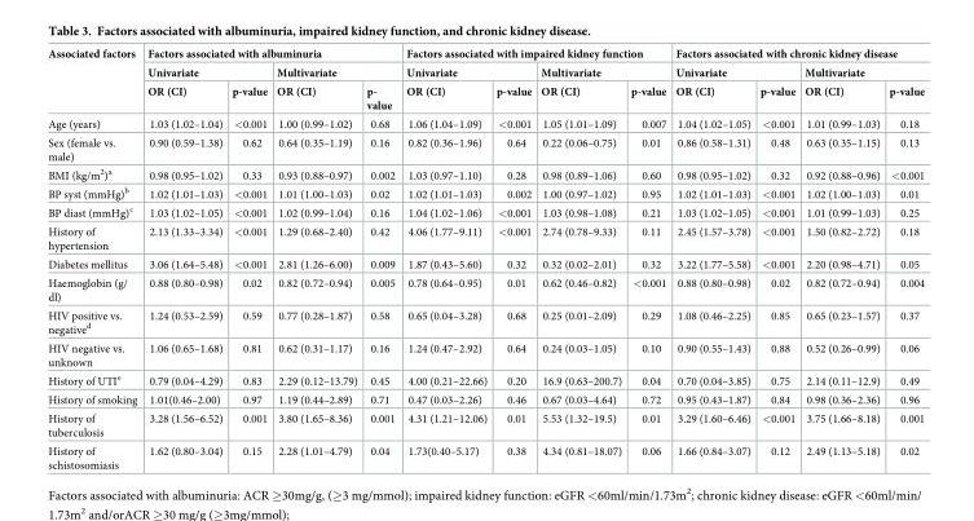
<table><thead><tr><td rowspan="3">Associated factors</td><td colspan="4">Factors associated with albuminuria</td><td colspan="4">Factors associated with impaired kidney function</td><td colspan="4">Factors associated with chronic kidney disease</td></tr><tr><td colspan="2">Univariate</td><td colspan="2">Multivariate</td><td colspan="2">Univariate</td><td colspan="2">Multivariate</td><td colspan="2">Univariate</td><td colspan="2">Multivariate</td></tr><tr><td>OR (CI)</td><td>p-value</td><td>OR (CI)</td><td>p- value</td><td>OR (CI)</td><td>p-value</td><td>OR (CI)</td><td>p-value</td><td>OR (CI)</td><td>p-value</td><td>OR (CI)</td><td>p-value</td></tr></thead><tbody><tr><td>Age (years)</td><td>1.03 (1.02–1.04)</td><td>&lt;0.001</td><td>1.00 (0.99–1.02)</td><td>0.68</td><td>1.06 (1.04–1.09)</td><td>&lt;0.001</td><td>1.05 (1.01–1.09)</td><td>0.007</td><td>1.04 (1.02–1.05)</td><td>&lt;0.001</td><td>1.01 (0.99–1.03)</td><td>0.18</td></tr><tr><td>Sex (female vs. male)</td><td>0.90 (0.59–1.38)</td><td>0.62</td><td>0.64 (0.35–1.19)</td><td>0.16</td><td>0.82 (0.36–1.96)</td><td>0.64</td><td>0.22 (0.06–0.75)</td><td>0.01</td><td>0.86 (0.58–1.31)</td><td>0.48</td><td>0.63 (0.35–1.15)</td><td>0.13</td></tr><tr><td>BMI (kg/m<sup>2</sup>)<sup>a</sup></td><td>0.98 (0.95–1.02)</td><td>0.33</td><td>0.93 (0.88–0.97)</td><td>0.002</td><td>1.03 (0.97–1.10)</td><td>0.28</td><td>0.98 (0.89–1.06)</td><td>0.60</td><td>0.98 (0.95–1.02)</td><td>0.32</td><td>0.92 (0.88–0.96)</td><td>&lt;0.001</td></tr><tr><td>BP syst (mmHg)<sup>b</sup></td><td>1.02 (1.01–1.03)</td><td>&lt;0.001</td><td>1.01 (1.00–1.03)</td><td>0.02</td><td>1.02 (1.01–1.03)</td><td>0.002</td><td>1.00 (0.97–1.02)</td><td>0.95</td><td>1.02 (1.01–1.03)</td><td>&lt;0.001</td><td>1.02 (1.00–1.03)</td><td>0.01</td></tr><tr><td>BP diast (mmHg)<sup>c</sup></td><td>1.03 (1.02–1.05)</td><td>&lt;0.001</td><td>1.02 (0.99–1.04)</td><td>0.16</td><td>1.04 (1.02–1.06)</td><td>&lt;0.001</td><td>1.03 (0.98–1.08)</td><td>0.21</td><td>1.03 (1.02–1.05)</td><td>&lt;0.001</td><td>1.01 (0.99–1.03)</td><td>0.25</td></tr><tr><td>History of hypertension</td><td>2.13 (1.33–3.34)</td><td>&lt;0.001</td><td>1.29 (0.68–2.40)</td><td>0.42</td><td>4.06 (1.77–9.11)</td><td>&lt;0.001</td><td>2.74 (0.78–9.33)</td><td>0.11</td><td>2.45 (1.57–3.78)</td><td>&lt;0.001</td><td>1.50 (0.82–2.72)</td><td>0.18</td></tr><tr><td>Diabetes mellitus</td><td>3.06 (1.64–5.48)</td><td>&lt;0.001</td><td>2.81 (1.26–6.00)</td><td>0.009</td><td>1.87 (0.43–5.60)</td><td>0.32</td><td>0.32 (0.02–2.01)</td><td>0.32</td><td>3.22 (1.77–5.58)</td><td>&lt;0.001</td><td>2.20 (0.98–4.71)</td><td>0.05</td></tr><tr><td>Haemoglobin (g/ dl)</td><td>0.88 (0.80–0.98)</td><td>0.02</td><td>0.82 (0.72–0.94)</td><td>0.005</td><td>0.78 (0.64–0.95)</td><td>0.01</td><td>0.62 (0.46–0.82)</td><td>&lt;0.001</td><td>0.88 (0.80–0.98)</td><td>0.02</td><td>0.82 (0.72–0.94)</td><td>0.004</td></tr><tr><td>HIV positive vs. negative<sup>d</sup></td><td>1.24 (0.53–2.59)</td><td>0.59</td><td>0.77 (0.28–1.87)</td><td>0.58</td><td>0.65 (0.04–3.28)</td><td>0.68</td><td>0.25 (0.01–2.09)</td><td>0.29</td><td>1.08 (0.46–2.25)</td><td>0.85</td><td>0.65 (0.23–1.57)</td><td>0.37</td></tr><tr><td>HIV negative vs. unknown</td><td>1.06 (0.65–1.68)</td><td>0.81</td><td>0.62 (0.31–1.17)</td><td>0.16</td><td>1.24 (0.47–2.92)</td><td>0.64</td><td>0.24 (0.03–1.05)</td><td>0.10</td><td>0.90 (0.55–1.43)</td><td>0.88</td><td>0.52 (0.26–0.99)</td><td>0.06</td></tr><tr><td>History of UTI<sup>e</sup></td><td>0.79 (0.04–4.29)</td><td>0.83</td><td>2.29 (0.12–13.79)</td><td>0.45</td><td>4.00 (0.21–22.66)</td><td>0.20</td><td>16.9 (0.63–200.7)</td><td>0.04</td><td>0.70 (0.04–3.85)</td><td>0.75</td><td>2.14 (0.11–12.9)</td><td>0.49</td></tr><tr><td>History of smoking</td><td>1.01(0.46–2.00)</td><td>0.97</td><td>1.19 (0.44–2.89)</td><td>0.71</td><td>0.47 (0.03–2.26)</td><td>0.46</td><td>0.67 (0.03–4.64)</td><td>0.72</td><td>0.95 (0.43–1.87)</td><td>0.84</td><td>0.98 (0.36–2.36)</td><td>0.96</td></tr><tr><td>History of tuberculosis</td><td>3.28 (1.56–6.52)</td><td>0.001</td><td>3.80 (1.65–8.36)</td><td>0.001</td><td>4.31 (1.21–12.06)</td><td>0.01</td><td>5.53 (1.32–19.5)</td><td>0.01</td><td>3.29 (1.60–6.46)</td><td>&lt;0.001</td><td>3.75 (1.66–8.18)</td><td>0.001</td></tr><tr><td>History of schistosomiasis</td><td>1.62 (0.80–3.04)</td><td>0.15</td><td>2.28 (1.01–4.79)</td><td>0.04</td><td>1.73(0.40–5.17)</td><td>0.38</td><td>4.34 (0.81–18.07)</td><td>0.06</td><td>1.66 (0.84–3.07)</td><td>0.12</td><td>2.49 (1.13–5.18)</td><td>0.02</td></tr></tbody></table>